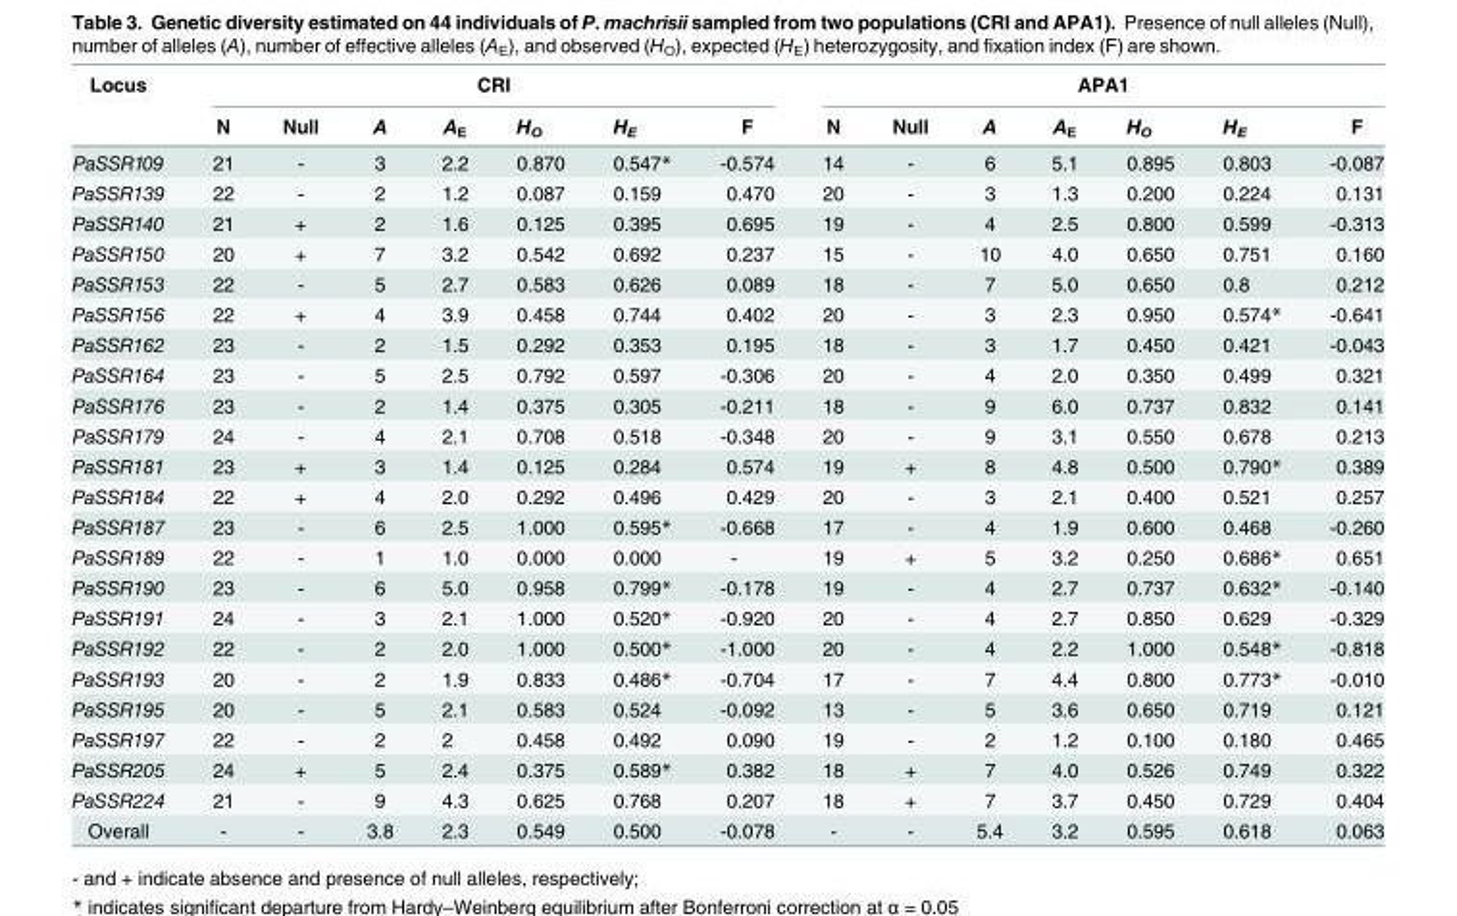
<table><thead><tr><td rowspan="2">Locus</td><td colspan="7">CRI</td><td colspan="7">APA1</td></tr><tr><td>N</td><td>Null</td><td>A</td><td>A<sub>E</sub></td><td>H<sub>O</sub></td><td>H<sub>E</sub></td><td>F</td><td>N</td><td>Null</td><td>A</td><td>A<sub>E</sub></td><td>H<sub>O</sub></td><td>H<sub>E</sub></td><td>F</td></tr></thead><tbody><tr><td>PaSSR109</td><td>21</td><td>-</td><td>3</td><td>2.2</td><td>0.870</td><td>0.547*</td><td>-0.574</td><td>14</td><td>-</td><td>6</td><td>5.1</td><td>0.895</td><td>0.803</td><td>-0.087</td></tr><tr><td>PaSSR139</td><td>22</td><td>-</td><td>2</td><td>1.2</td><td>0.087</td><td>0.159</td><td>0.470</td><td>20</td><td>-</td><td>3</td><td>1.3</td><td>0.200</td><td>0.224</td><td>0.131</td></tr><tr><td>PaSSR140</td><td>21</td><td>+</td><td>2</td><td>1.6</td><td>0.125</td><td>0.395</td><td>0.695</td><td>19</td><td>-</td><td>4</td><td>2.5</td><td>0.800</td><td>0.599</td><td>-0.313</td></tr><tr><td>PaSSR150</td><td>20</td><td>+</td><td>7</td><td>3.2</td><td>0.542</td><td>0.692</td><td>0.237</td><td>15</td><td>-</td><td>10</td><td>4.0</td><td>0.650</td><td>0.751</td><td>0.160</td></tr><tr><td>PaSSR153</td><td>22</td><td>-</td><td>5</td><td>2.7</td><td>0.583</td><td>0.626</td><td>0.089</td><td>18</td><td>-</td><td>7</td><td>5.0</td><td>0.650</td><td>0.8</td><td>0.212</td></tr><tr><td>PaSSR156</td><td>22</td><td>+</td><td>4</td><td>3.9</td><td>0.458</td><td>0.744</td><td>0.402</td><td>20</td><td>-</td><td>3</td><td>2.3</td><td>0.950</td><td>0.574*</td><td>-0.641</td></tr><tr><td>PaSSR162</td><td>23</td><td>-</td><td>2</td><td>1.5</td><td>0.292</td><td>0.353</td><td>0.195</td><td>18</td><td>-</td><td>3</td><td>1.7</td><td>0.450</td><td>0.421</td><td>-0.043</td></tr><tr><td>PaSSR164</td><td>23</td><td>-</td><td>5</td><td>2.5</td><td>0.792</td><td>0.597</td><td>-0.306</td><td>20</td><td>-</td><td>4</td><td>2.0</td><td>0.350</td><td>0.499</td><td>0.321</td></tr><tr><td>PaSSR176</td><td>23</td><td>-</td><td>2</td><td>1.4</td><td>0.375</td><td>0.305</td><td>-0.211</td><td>18</td><td>-</td><td>9</td><td>6.0</td><td>0.737</td><td>0.832</td><td>0.141</td></tr><tr><td>PaSSR179</td><td>24</td><td>-</td><td>4</td><td>2.1</td><td>0.708</td><td>0.518</td><td>-0.348</td><td>20</td><td>-</td><td>9</td><td>3.1</td><td>0.550</td><td>0.678</td><td>0.213</td></tr><tr><td>PaSSR181</td><td>23</td><td>+</td><td>3</td><td>1.4</td><td>0.125</td><td>0.284</td><td>0.574</td><td>19</td><td>+</td><td>8</td><td>4.8</td><td>0.500</td><td>0.790*</td><td>0.389</td></tr><tr><td>PaSSR184</td><td>22</td><td>+</td><td>4</td><td>2.0</td><td>0.292</td><td>0.496</td><td>0.429</td><td>20</td><td>-</td><td>3</td><td>2.1</td><td>0.400</td><td>0.521</td><td>0.257</td></tr><tr><td>PaSSR187</td><td>23</td><td>-</td><td>6</td><td>2.5</td><td>1.000</td><td>0.595*</td><td>-0.668</td><td>17</td><td>-</td><td>4</td><td>1.9</td><td>0.600</td><td>0.468</td><td>-0.260</td></tr><tr><td>PaSSR189</td><td>22</td><td>-</td><td>1</td><td>1.0</td><td>0.000</td><td>0.000</td><td>-</td><td>19</td><td>+</td><td>5</td><td>3.2</td><td>0.250</td><td>0.686*</td><td>0.651</td></tr><tr><td>PaSSR190</td><td>23</td><td>-</td><td>6</td><td>5.0</td><td>0.958</td><td>0.799*</td><td>-0.178</td><td>19</td><td>-</td><td>4</td><td>2.7</td><td>0.737</td><td>0.632*</td><td>-0.140</td></tr><tr><td>PaSSR191</td><td>24</td><td>-</td><td>3</td><td>2.1</td><td>1.000</td><td>0.520*</td><td>-0.920</td><td>20</td><td>-</td><td>4</td><td>2.7</td><td>0.850</td><td>0.629</td><td>-0.329</td></tr><tr><td>PaSSR192</td><td>22</td><td>-</td><td>2</td><td>2.0</td><td>1.000</td><td>0.500*</td><td>-1.000</td><td>20</td><td>-</td><td>4</td><td>2.2</td><td>1.000</td><td>0.548*</td><td>-0.818</td></tr><tr><td>PaSSR193</td><td>20</td><td>-</td><td>2</td><td>1.9</td><td>0.833</td><td>0.486*</td><td>-0.704</td><td>17</td><td>-</td><td>7</td><td>4.4</td><td>0.800</td><td>0.773*</td><td>-0.010</td></tr><tr><td>PaSSR195</td><td>20</td><td>-</td><td>5</td><td>2.1</td><td>0.583</td><td>0.524</td><td>-0.092</td><td>13</td><td>-</td><td>5</td><td>3.6</td><td>0.650</td><td>0.719</td><td>0.121</td></tr><tr><td>PaSSR197</td><td>22</td><td>-</td><td>2</td><td>2</td><td>0.458</td><td>0.492</td><td>0.090</td><td>19</td><td>-</td><td>2</td><td>1.2</td><td>0.100</td><td>0.180</td><td>0.465</td></tr><tr><td>PaSSR205</td><td>24</td><td>+</td><td>5</td><td>2.4</td><td>0.375</td><td>0.589*</td><td>0.382</td><td>18</td><td>+</td><td>7</td><td>4.0</td><td>0.526</td><td>0.749</td><td>0.322</td></tr><tr><td>PaSSR224</td><td>21</td><td>-</td><td>9</td><td>4.3</td><td>0.625</td><td>0.768</td><td>0.207</td><td>18</td><td>+</td><td>7</td><td>3.7</td><td>0.450</td><td>0.729</td><td>0.404</td></tr><tr><td>Overall</td><td>-</td><td>-</td><td>3.8</td><td>2.3</td><td>0.549</td><td>0.500</td><td>-0.078</td><td>-</td><td>-</td><td>5.4</td><td>3.2</td><td>0.595</td><td>0.618</td><td>0.063</td></tr></tbody></table>